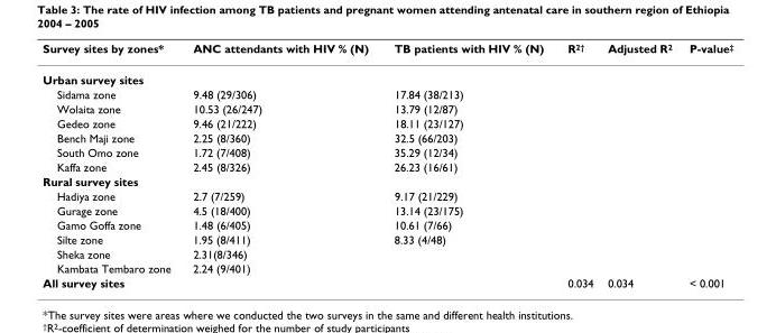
<table><thead><tr><td>Survey sites by zones*</td><td>ANC attendants with HIV % (N)</td><td>TB patients with HIV % (N)</td><td>R<sup>2†</sup></td><td>Adjusted R<sup>2</sup></td><td>P-value<sup>‡</sup></td></tr></thead><tbody><tr><td colspan="6">Urban survey sites</td></tr><tr><td>Sidama zone</td><td>9.48 (29/306)</td><td>17.84 (38/213)</td><td></td><td></td><td></td></tr><tr><td>Wolaita zone</td><td>10.53 (26/247)</td><td>13.79 (12/87)</td><td></td><td></td><td></td></tr><tr><td>Gedeo zone</td><td>9.46 (21/222)</td><td>18.11 (23/127)</td><td></td><td></td><td></td></tr><tr><td>Bench Maji zone</td><td>2.25 (8/360)</td><td>32.5 (66/203)</td><td></td><td></td><td></td></tr><tr><td>South Omo zone</td><td>1.72 (7/408)</td><td>35.29 (12/34)</td><td></td><td></td><td></td></tr><tr><td>Kaffa zone</td><td>2.45 (8/326)</td><td>26.23 (16/61)</td><td></td><td></td><td></td></tr><tr><td colspan="6">Rural survey sites</td></tr><tr><td>Hadiya zone</td><td>2.7 (7/259)</td><td>9.17 (21/229)</td><td></td><td></td><td></td></tr><tr><td>Gurage zone</td><td>4.5 (18/400)</td><td>13.14 (23/175)</td><td></td><td></td><td></td></tr><tr><td>Gamo Goffa zone</td><td>1.48 (6/405)</td><td>10.61 (7/66)</td><td></td><td></td><td></td></tr><tr><td>Silte zone</td><td>1.95 (8/411)</td><td>8.33 (4/48)</td><td></td><td></td><td></td></tr><tr><td>Sheka zone</td><td>2.31(8/346)</td><td></td><td></td><td></td><td></td></tr><tr><td>Kambata Tembaro zone</td><td>2.24 (9/401)</td><td></td><td></td><td></td><td></td></tr><tr><td>All survey sites</td><td></td><td></td><td>0.034</td><td>0.034</td><td>&lt; 0.001</td></tr></tbody></table>